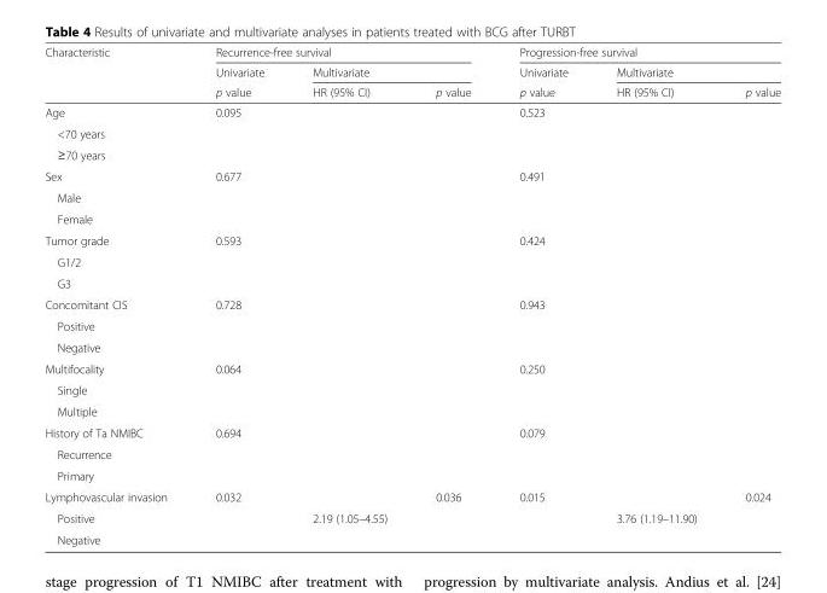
<table><thead><tr><td rowspan="3">Characteristic</td><td colspan="3">Recurrence-free survival</td><td colspan="3">Progression-free survival</td></tr><tr><td rowspan="2">Univariate p value</td><td colspan="2">Multivariate</td><td rowspan="2">Univariate p value</td><td colspan="2">Multivariate</td></tr><tr><td>HR (95% CI)</td><td>p value</td><td>HR (95% CI)</td><td>p value</td></tr></thead><tbody><tr><td>Age</td><td>0.095</td><td></td><td></td><td>0.523</td><td></td><td></td></tr><tr><td colspan="7">&lt;70 years</td></tr><tr><td colspan="7">≥70 years</td></tr><tr><td>Sex</td><td>0.677</td><td></td><td></td><td>0.491</td><td></td><td></td></tr><tr><td colspan="7">Male</td></tr><tr><td colspan="7">Female</td></tr><tr><td>Tumor grade</td><td>0.593</td><td></td><td></td><td>0.424</td><td></td><td></td></tr><tr><td colspan="7">G1/2</td></tr><tr><td colspan="7">G3</td></tr><tr><td>Concomitant CIS</td><td>0.728</td><td></td><td></td><td>0.943</td><td></td><td></td></tr><tr><td colspan="7">Positive</td></tr><tr><td colspan="7">Negative</td></tr><tr><td>Multifocality</td><td>0.064</td><td></td><td></td><td>0.250</td><td></td><td></td></tr><tr><td colspan="7">Single</td></tr><tr><td colspan="7">Multiple</td></tr><tr><td>History of Ta NMIBC</td><td>0.694</td><td></td><td></td><td>0.079</td><td></td><td></td></tr><tr><td colspan="7">Recurrence</td></tr><tr><td colspan="7">Primary</td></tr><tr><td>Lymphovascular invasion</td><td>0.032</td><td></td><td>0.036</td><td>0.015</td><td></td><td>0.024</td></tr><tr><td>Positive</td><td></td><td>2.19 (1.05–4.55)</td><td></td><td></td><td>3.76 (1.19–11.90)</td><td></td></tr><tr><td>Negative</td><td></td><td></td><td></td><td></td><td></td><td></td></tr></tbody></table>